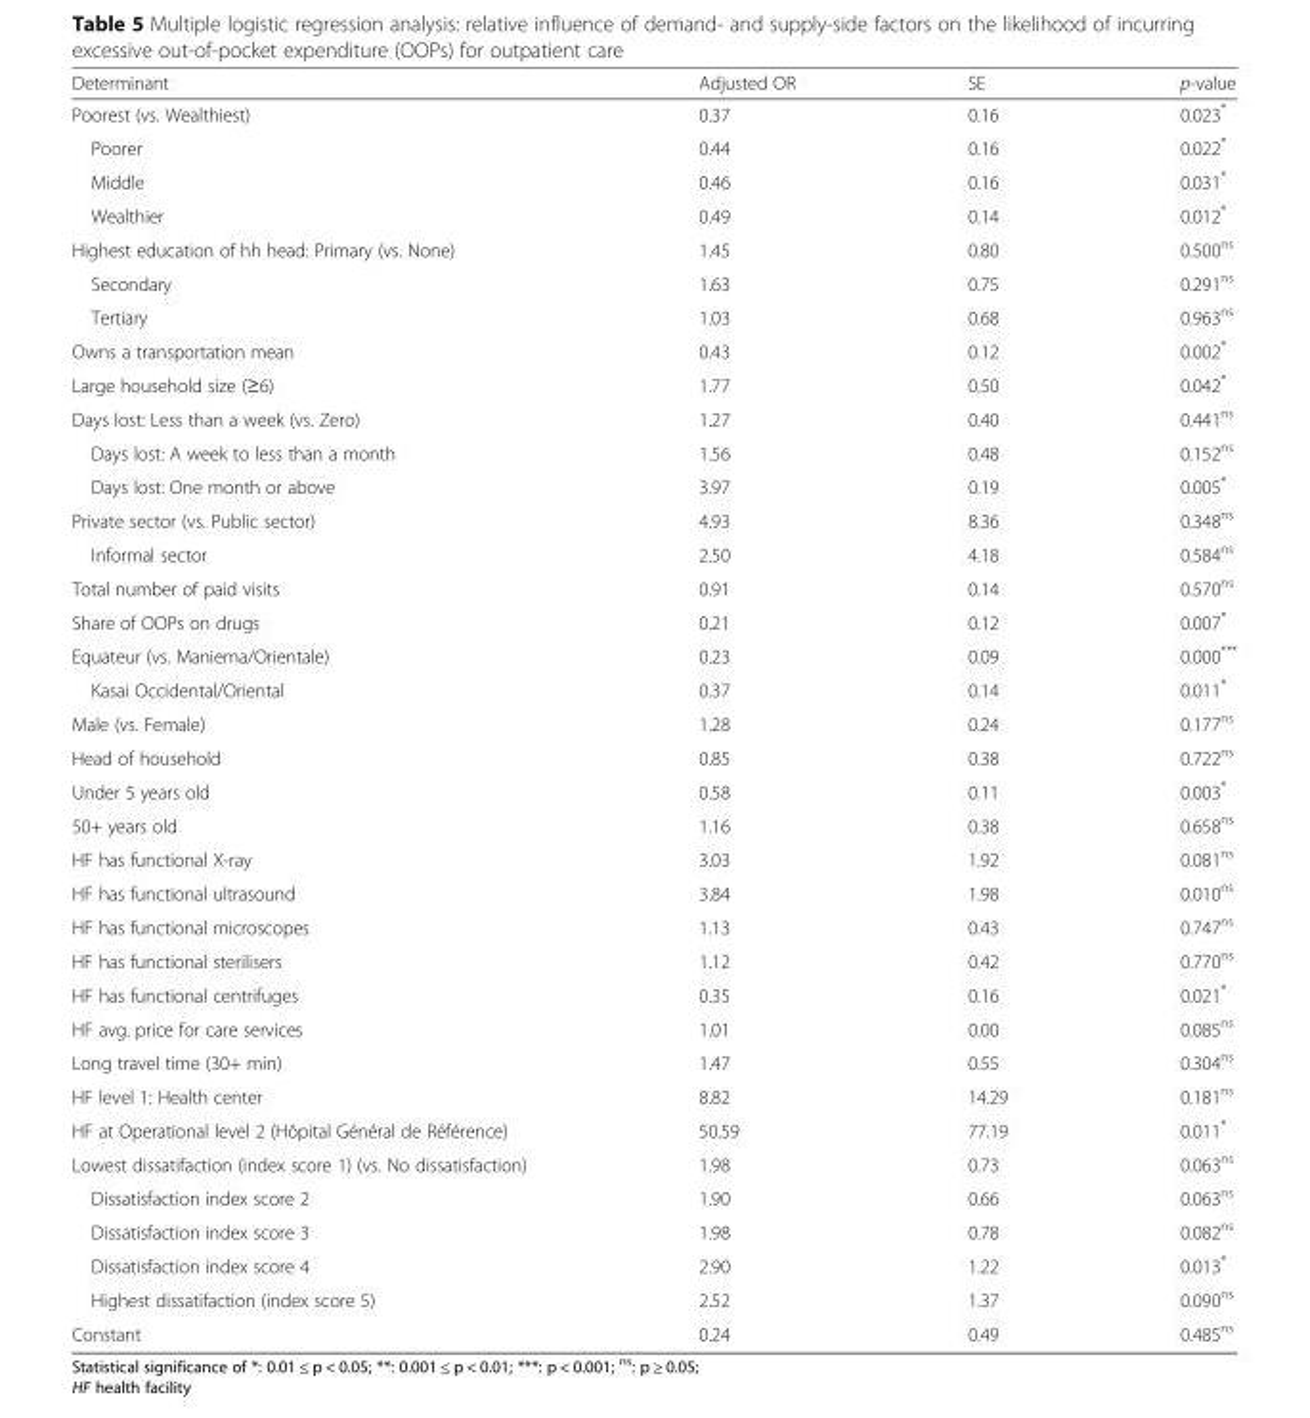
<table><thead><tr><td>Determinant</td><td>Adjusted OR</td><td>SE</td><td>p-value</td></tr></thead><tbody><tr><td>Poorest (vs. Wealthiest)</td><td>0.37</td><td>0.16</td><td>0.023*</td></tr><tr><td>Poorer</td><td>0.44</td><td>0.16</td><td>0.022*</td></tr><tr><td>Middle</td><td>0.46</td><td>0.16</td><td>0.031*</td></tr><tr><td>Wealthier</td><td>0.49</td><td>0.14</td><td>0.012*</td></tr><tr><td>Highest education of hh head: Primary (vs. None)</td><td>1.45</td><td>0.80</td><td>0.500<sup>ns</sup></td></tr><tr><td>Secondary</td><td>1.63</td><td>0.75</td><td>0.291<sup>ns</sup></td></tr><tr><td>Tertiary</td><td>1.03</td><td>0.68</td><td>0.963<sup>ns</sup></td></tr><tr><td>Owns a transportation mean</td><td>0.43</td><td>0.12</td><td>0.002*</td></tr><tr><td>Large household size (≥6)</td><td>1.77</td><td>0.50</td><td>0.042*</td></tr><tr><td>Days lost: Less than a week (vs. Zero)</td><td>1.27</td><td>0.40</td><td>0.441<sup>ns</sup></td></tr><tr><td>Days lost: A week to less than a month</td><td>1.56</td><td>0.48</td><td>0.152<sup>ns</sup></td></tr><tr><td>Days lost: One month or above</td><td>3.97</td><td>0.19</td><td>0.005*</td></tr><tr><td>Private sector (vs. Public sector)</td><td>4.93</td><td>8.36</td><td>0.348<sup>ns</sup></td></tr><tr><td>Informal sector</td><td>2.50</td><td>4.18</td><td>0.584<sup>ns</sup></td></tr><tr><td>Total number of paid visits</td><td>0.91</td><td>0.14</td><td>0.570<sup>ns</sup></td></tr><tr><td>Share of OOPs on drugs</td><td>0.21</td><td>0.12</td><td>0.007*</td></tr><tr><td>Equateur (vs. Maniema/Orientale)</td><td>0.23</td><td>0.09</td><td>0.000***</td></tr><tr><td>Kasai Occidental/Oriental</td><td>0.37</td><td>0.14</td><td>0.011*</td></tr><tr><td>Male (vs. Female)</td><td>1.28</td><td>0.24</td><td>0.177<sup>ns</sup></td></tr><tr><td>Head of household</td><td>0.85</td><td>0.38</td><td>0.722<sup>ns</sup></td></tr><tr><td>Under 5 years old</td><td>0.58</td><td>0.11</td><td>0.003*</td></tr><tr><td>50+ years old</td><td>1.16</td><td>0.38</td><td>0.658<sup>ns</sup></td></tr><tr><td>HF has functional X-ray</td><td>3.03</td><td>1.92</td><td>0.081<sup>ns</sup></td></tr><tr><td>HF has functional ultrasound</td><td>3.84</td><td>1.98</td><td>0.010<sup>ns</sup></td></tr><tr><td>HF has functional microscopes</td><td>1.13</td><td>0.43</td><td>0.747<sup>ns</sup></td></tr><tr><td>HF has functional sterilisers</td><td>1.12</td><td>0.42</td><td>0.770<sup>ns</sup></td></tr><tr><td>HF has functional centrifuges</td><td>0.35</td><td>0.16</td><td>0.021*</td></tr><tr><td>HF avg. price for care services</td><td>1.01</td><td>0.00</td><td>0.085<sup>ns</sup></td></tr><tr><td>Long travel time (30+ min)</td><td>1.47</td><td>0.55</td><td>0.304<sup>ns</sup></td></tr><tr><td>HF level 1: Health center</td><td>8.82</td><td>14.29</td><td>0.181<sup>ns</sup></td></tr><tr><td>HF at Operational level 2 (Hôpital Général de Référence)</td><td>50.59</td><td>77.19</td><td>0.011*</td></tr><tr><td>Lowest dissatifaction (index score 1) (vs. No dissatisfaction)</td><td>1.98</td><td>0.73</td><td>0.063<sup>ns</sup></td></tr><tr><td>Dissatisfaction index score 2</td><td>1.90</td><td>0.66</td><td>0.063<sup>ns</sup></td></tr><tr><td>Dissatisfaction index score 3</td><td>1.98</td><td>0.78</td><td>0.082<sup>ns</sup></td></tr><tr><td>Dissatisfaction index score 4</td><td>2.90</td><td>1.22</td><td>0.013*</td></tr><tr><td>Highest dissatifaction (index score 5)</td><td>2.52</td><td>1.37</td><td>0.090<sup>ns</sup></td></tr><tr><td>Constant</td><td>0.24</td><td>0.49</td><td>0.485<sup>ns</sup></td></tr></tbody></table>